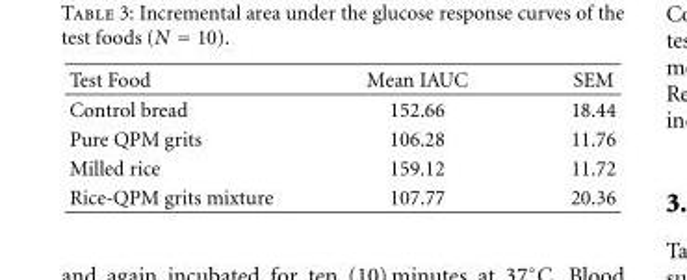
<table><thead><tr><td>Test Food</td><td>Mean IAUC</td><td>SEM</td></tr></thead><tbody><tr><td>Control bread</td><td>152.66</td><td>18.44</td></tr><tr><td>Pure QPM grits</td><td>106.28</td><td>11.76</td></tr><tr><td>Milled rice</td><td>159.12</td><td>11.72</td></tr><tr><td>Rice-QPM grits mixture</td><td>107.77</td><td>20.36</td></tr></tbody></table>